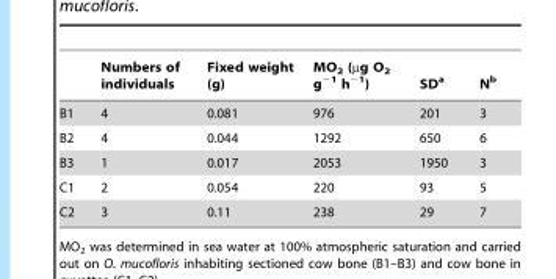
<table><thead><tr><td></td><td>Numbers of individuals</td><td>Fixed weight (g)</td><td>MO<sub>2</sub> (µg O<sub>2</sub> g<sup>−1</sup> h<sup>−1</sup>)</td><td>SD<sup>a</sup></td><td>N<sup>b</sup></td></tr></thead><tbody><tr><td>B1</td><td>4</td><td>0.081</td><td>976</td><td>201</td><td>3</td></tr><tr><td>B2</td><td>4</td><td>0.044</td><td>1292</td><td>650</td><td>6</td></tr><tr><td>B3</td><td>1</td><td>0.017</td><td>2053</td><td>1950</td><td>3</td></tr><tr><td>C1</td><td>2</td><td>0.054</td><td>220</td><td>93</td><td>5</td></tr><tr><td>C2</td><td>3</td><td>0.11</td><td>238</td><td>29</td><td>7</td></tr></tbody></table>